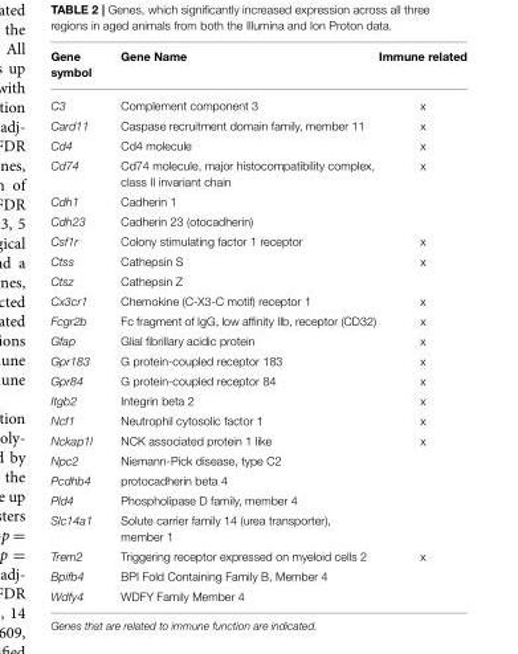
<table><thead><tr><td>Gene symbol</td><td>Gene Name</td><td>Immune related</td></tr></thead><tbody><tr><td>C3</td><td>Complement component 3</td><td>x</td></tr><tr><td>Card11</td><td>Caspase recruitment domain family, member 11</td><td>x</td></tr><tr><td>Cd4</td><td>Cd4 molecule</td><td>x</td></tr><tr><td>Cd74</td><td>Cd74 molecule, major histocompatibility complex, class II invariant chain</td><td>x</td></tr><tr><td>Cdh1</td><td>Cadherin 1</td><td></td></tr><tr><td>Cdh23</td><td>Cadherin 23 (otocadherin)</td><td></td></tr><tr><td>Csf1r</td><td>Colony stimulating factor 1 receptor</td><td>x</td></tr><tr><td>Ctss</td><td>Cathepsin S</td><td>x</td></tr><tr><td>Ctsz</td><td>Cathepsin Z</td><td></td></tr><tr><td>Cx3cr1</td><td>Chemokine (C-X3-C motif) receptor 1</td><td>x</td></tr><tr><td>Fcgr2b</td><td>Fc fragment of IgG, low affinity IIb, receptor (CD32)</td><td>x</td></tr><tr><td>Gfap</td><td>Glial fibrillary acidic protein</td><td>x</td></tr><tr><td>Gpr183</td><td>G protein-coupled receptor 183</td><td>x</td></tr><tr><td>Gpr84</td><td>G protein-coupled receptor 84</td><td>x</td></tr><tr><td>Itgb2</td><td>Integrin beta 2</td><td>x</td></tr><tr><td>Ncf1</td><td>Neutrophil cytosolic factor 1</td><td>x</td></tr><tr><td>Nckap1l</td><td>NCK associated protein 1 like</td><td>x</td></tr><tr><td>Npc2</td><td>Niemann-Pick disease, type C2</td><td></td></tr><tr><td>Pcdhb4</td><td>protocadherin beta 4</td><td></td></tr><tr><td>Pld4</td><td>Phospholipase D family, member 4</td><td></td></tr><tr><td>Slc14a1</td><td>Solute carrier family 14 (urea transporter), member 1</td><td></td></tr><tr><td>Trem2</td><td>Triggering receptor expressed on myeloid cells 2</td><td>x</td></tr><tr><td>Bpifb4</td><td>BPI Fold Containing Family B, Member 4</td><td></td></tr><tr><td>Wdfy4</td><td>WDFY Family Member 4</td><td></td></tr></tbody></table>